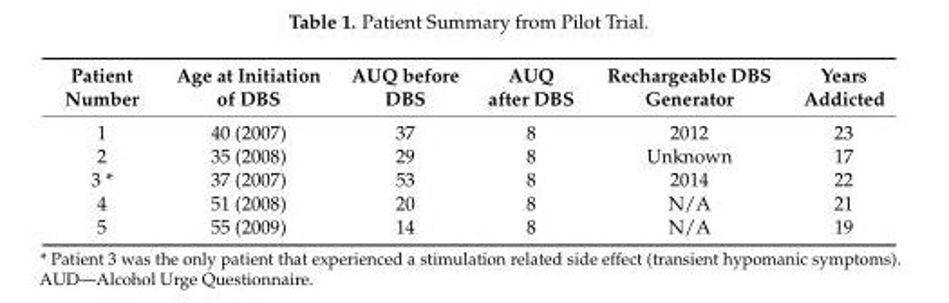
<table><thead><tr><td>Patient Number</td><td>Age at Initiation of DBS</td><td>AUQ before DBS</td><td>AUQ after DBS</td><td>Rechargeable DBS Generator</td><td>Years Addicted</td></tr></thead><tbody><tr><td>1</td><td>40 (2007)</td><td>37</td><td>8</td><td>2012</td><td>23</td></tr><tr><td>2</td><td>35 (2008)</td><td>29</td><td>8</td><td>Unknown</td><td>17</td></tr><tr><td>3 *</td><td>37 (2007)</td><td>53</td><td>8</td><td>2014</td><td>22</td></tr><tr><td>4</td><td>51 (2008)</td><td>20</td><td>8</td><td>N/A</td><td>21</td></tr><tr><td>5</td><td>55 (2009)</td><td>14</td><td>8</td><td>N/A</td><td>19</td></tr></tbody></table>